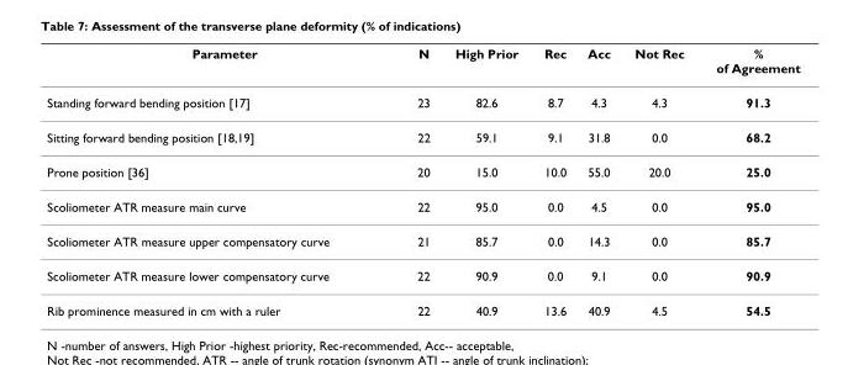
<table><thead><tr><td>Parameter</td><td>N</td><td>High Prior</td><td>Rec</td><td>Acc</td><td>Not Rec</td><td>% of Agreement</td></tr></thead><tbody><tr><td>Standing forward bending position [17]</td><td>23</td><td>82.6</td><td>8.7</td><td>4.3</td><td>4.3</td><td>91.3</td></tr><tr><td>Sitting forward bending position [18,19]</td><td>22</td><td>59.1</td><td>9.1</td><td>31.8</td><td>0.0</td><td>68.2</td></tr><tr><td>Prone position [36]</td><td>20</td><td>15.0</td><td>10.0</td><td>55.0</td><td>20.0</td><td>25.0</td></tr><tr><td>Scoliometer ATR measure main curve</td><td>22</td><td>95.0</td><td>0.0</td><td>4.5</td><td>0.0</td><td>95.0</td></tr><tr><td>Scoliometer ATR measure upper compensatory curve</td><td>21</td><td>85.7</td><td>0.0</td><td>14.3</td><td>0.0</td><td>85.7</td></tr><tr><td>Scoliometer ATR measure lower compensatory curve</td><td>22</td><td>90.9</td><td>0.0</td><td>9.1</td><td>0.0</td><td>90.9</td></tr><tr><td>Rib prominence measured in cm with a ruler</td><td>22</td><td>40.9</td><td>13.6</td><td>40.9</td><td>4.5</td><td>54.5</td></tr></tbody></table>